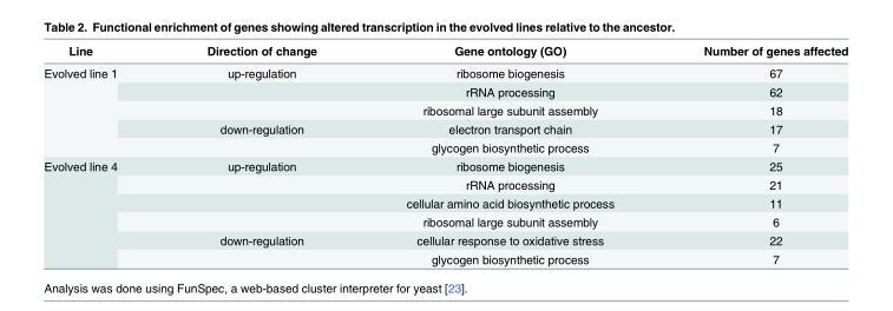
<table><thead><tr><td>Line</td><td>Direction of change</td><td>Gene ontology (GO)</td><td>Number of genes affected</td></tr></thead><tbody><tr><td rowspan="5">Evolved line 1</td><td>up-regulation</td><td>ribosome biogenesis</td><td>67</td></tr><tr><td></td><td>rRNA processing</td><td>62</td></tr><tr><td></td><td>ribosomal large subunit assembly</td><td>18</td></tr><tr><td>down-regulation</td><td>electron transport chain</td><td>17</td></tr><tr><td></td><td>glycogen biosynthetic process</td><td>7</td></tr><tr><td rowspan="6">Evolved line 4</td><td>up-regulation</td><td>ribosome biogenesis</td><td>25</td></tr><tr><td></td><td>rRNA processing</td><td>21</td></tr><tr><td></td><td>cellular amino acid biosynthetic process</td><td>11</td></tr><tr><td></td><td>ribosomal large subunit assembly</td><td>6</td></tr><tr><td>down-regulation</td><td>cellular response to oxidative stress</td><td>22</td></tr><tr><td></td><td>glycogen biosynthetic process</td><td>7</td></tr></tbody></table>